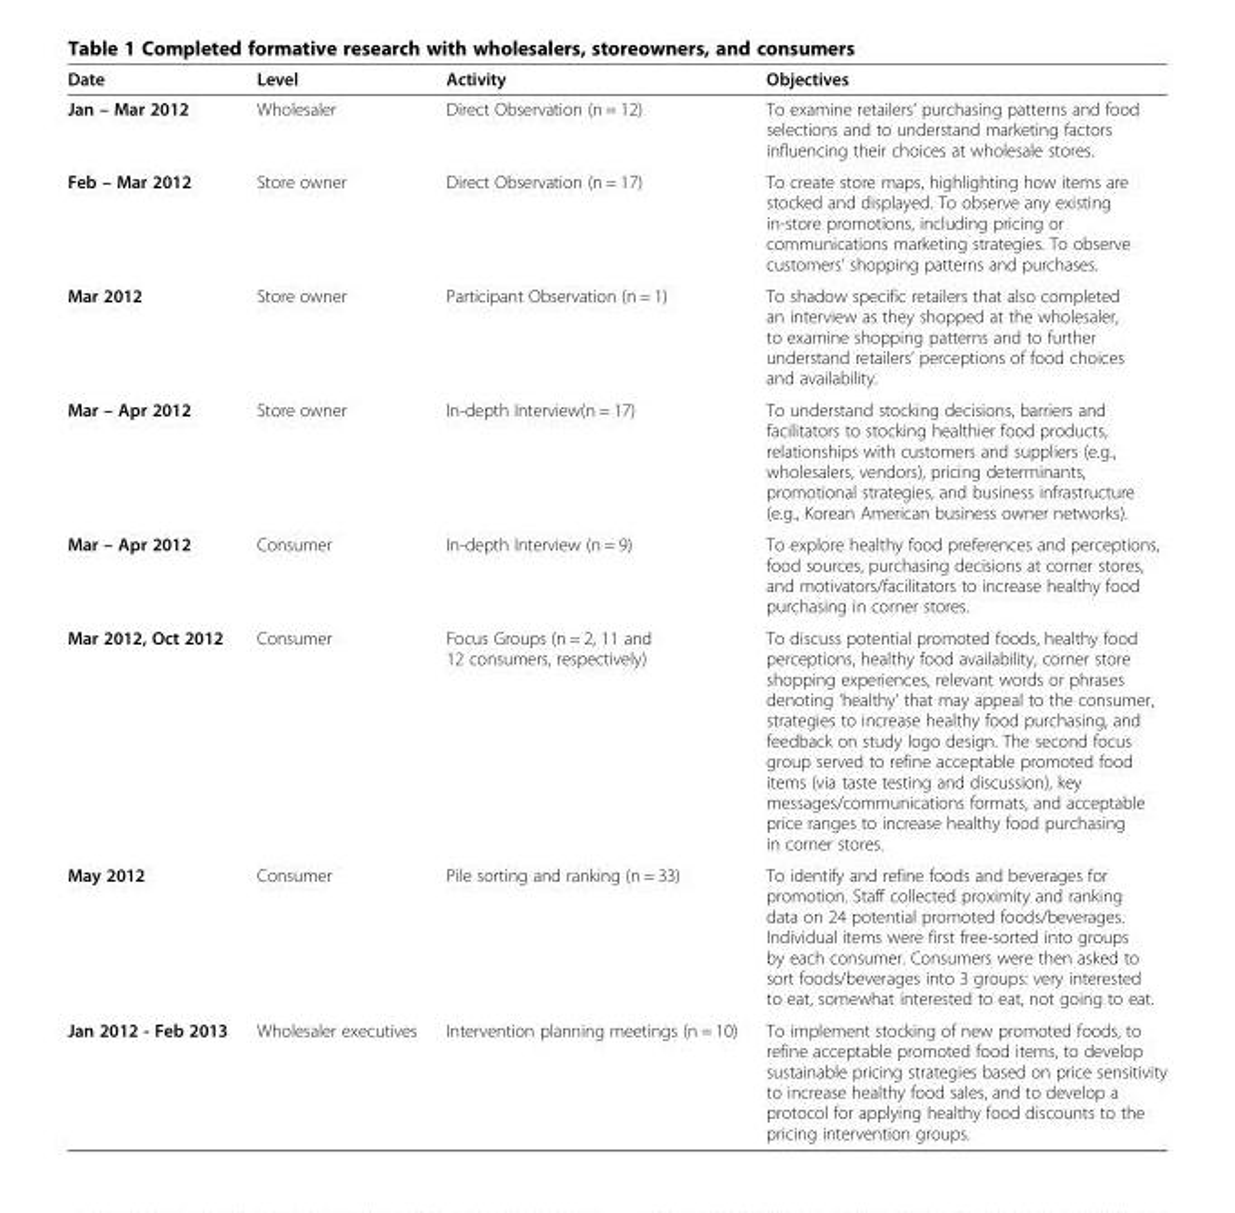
<table><thead><tr><td>Date</td><td>Level</td><td>Activity</td><td>Objectives</td></tr></thead><tbody><tr><td>Jan – Mar 2012</td><td>Wholesaler</td><td>Direct Observation (n = 12)</td><td>To examine retailers’ purchasing patterns and food selections and to understand marketing factors influencing their choices at wholesale stores.</td></tr><tr><td>Feb – Mar 2012</td><td>Store owner</td><td>Direct Observation (n = 17)</td><td>To create store maps, highlighting how items are stocked and displayed. To observe any existing in-store promotions, including pricing or communications marketing strategies. To observe customers’ shopping patterns and purchases.</td></tr><tr><td>Mar 2012</td><td>Store owner</td><td>Participant Observation (n = 1)</td><td>To shadow specific retailers that also completed an interview as they shopped at the wholesaler, to examine shopping patterns and to further understand retailers’ perceptions of food choices and availability.</td></tr><tr><td>Mar – Apr 2012</td><td>Store owner</td><td>In-depth Interview(n = 17)</td><td>To understand stocking decisions, barriers and facilitators to stocking healthier food products, relationships with customers and suppliers (e.g., wholesalers, vendors), pricing determinants, promotional strategies, and business infrastructure (e.g., Korean American business owner networks).</td></tr><tr><td>Mar – Apr 2012</td><td>Consumer</td><td>In-depth Interview (n = 9)</td><td>To explore healthy food preferences and perceptions, food sources, purchasing decisions at corner stores, and motivators/facilitators to increase healthy food purchasing in corner stores.</td></tr><tr><td>Mar 2012, Oct 2012</td><td>Consumer</td><td>Focus Groups (n = 2, 11 and 12 consumers, respectively)</td><td>To discuss potential promoted foods, healthy food perceptions, healthy food availability, corner store shopping experiences, relevant words or phrases denoting ‘healthy’ that may appeal to the consumer, strategies to increase healthy food purchasing, and feedback on study logo design. The second focus group served to refine acceptable promoted food items (via taste testing and discussion), key messages/communications formats, and acceptable price ranges to increase healthy food purchasing in corner stores.</td></tr><tr><td>May 2012</td><td>Consumer</td><td>Pile sorting and ranking (n = 33)</td><td>To identify and refine foods and beverages for promotion. Staff collected proximity and ranking data on 24 potential promoted foods/beverages. Individual items were first free-sorted into groups by each consumer. Consumers were then asked to sort foods/beverages into 3 groups: very interested to eat, somewhat interested to eat, not going to eat.</td></tr><tr><td>Jan 2012 - Feb 2013</td><td>Wholesaler executives</td><td>Intervention planning meetings (n = 10)</td><td>To implement stocking of new promoted foods, to refine acceptable promoted food items, to develop sustainable pricing strategies based on price sensitivity to increase healthy food sales, and to develop a protocol for applying healthy food discounts to the pricing intervention groups.</td></tr></tbody></table>